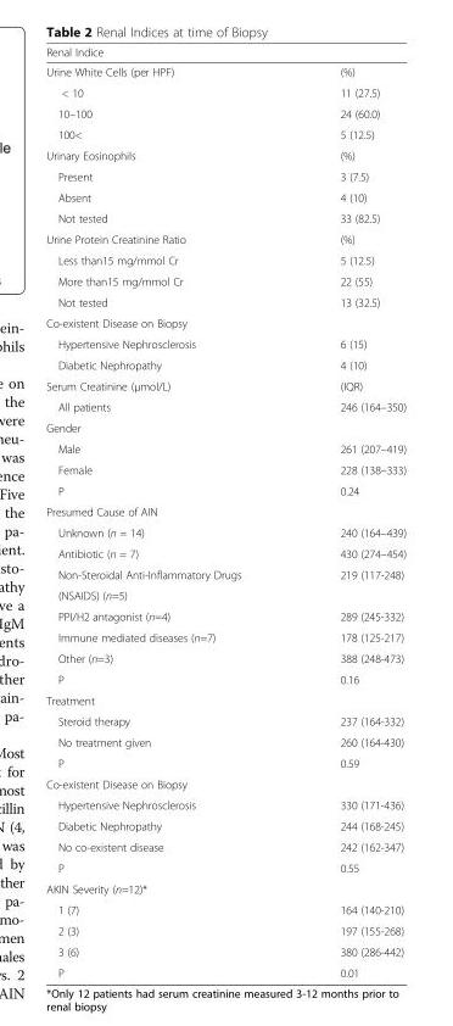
<table><thead><tr><td colspan="2">Renal Indice</td></tr><tr><td>Urine White Cells (per HPF)</td><td>(%)</td></tr></thead><tbody><tr><td>&lt; 10</td><td>11 (27.5)</td></tr><tr><td>10–100</td><td>24 (60.0)</td></tr><tr><td>100&lt;</td><td>5 (12.5)</td></tr><tr><td>Urinary Eosinophils</td><td>(%)</td></tr><tr><td>Present</td><td>3 (7.5)</td></tr><tr><td>Absent</td><td>4 (10)</td></tr><tr><td>Not tested</td><td>33 (82.5)</td></tr><tr><td>Urine Protein Creatinine Ratio</td><td>(%)</td></tr><tr><td>Less than15 mg/mmol Cr</td><td>5 (12.5)</td></tr><tr><td>More than15 mg/mmol Cr</td><td>22 (55)</td></tr><tr><td>Not tested</td><td>13 (32.5)</td></tr><tr><td colspan="2">Co-existent Disease on Biopsy</td></tr><tr><td>Hypertensive Nephrosclerosis</td><td>6 (15)</td></tr><tr><td>Diabetic Nephropathy</td><td>4 (10)</td></tr><tr><td>Serum Creatinine (μmol/L)</td><td>(IQR)</td></tr><tr><td>All patients</td><td>246 (164–350)</td></tr><tr><td colspan="2">Gender</td></tr><tr><td>Male</td><td>261 (207–419)</td></tr><tr><td>Female</td><td>228 (138–333)</td></tr><tr><td>P</td><td>0.24</td></tr><tr><td colspan="2">Presumed Cause of AIN</td></tr><tr><td>Unknown (n = 14)</td><td>240 (164–439)</td></tr><tr><td>Antibiotic (n = 7)</td><td>430 (274–454)</td></tr><tr><td>Non-Steroidal Anti-Inflammatory Drugs</td><td>219 (117-248)</td></tr><tr><td colspan="2">(NSAIDS) (n=5)</td></tr><tr><td>PPI/H2 antagonist (n=4)</td><td>289 (245-332)</td></tr><tr><td>Immune mediated diseases (n=7)</td><td>178 (125-217)</td></tr><tr><td>Other (n=3)</td><td>388 (248-473)</td></tr><tr><td>P</td><td>0.16</td></tr><tr><td colspan="2">Treatment</td></tr><tr><td>Steroid therapy</td><td>237 (164-332)</td></tr><tr><td>No treatment given</td><td>260 (164-430)</td></tr><tr><td>P</td><td>0.59</td></tr><tr><td colspan="2">Co-existent Disease on Biopsy</td></tr><tr><td>Hypertensive Nephrosclerosis</td><td>330 (171-436)</td></tr><tr><td>Diabetic Nephropathy</td><td>244 (168-245)</td></tr><tr><td>No co-existent disease</td><td>242 (162-347)</td></tr><tr><td>P</td><td>0.55</td></tr><tr><td colspan="2">AKIN Severity (n=12)*</td></tr><tr><td>1 (7)</td><td>164 (140-210)</td></tr><tr><td>2 (3)</td><td>197 (155-268)</td></tr><tr><td>3 (6)</td><td>380 (286-442)</td></tr><tr><td>P</td><td>0.01</td></tr></tbody></table>